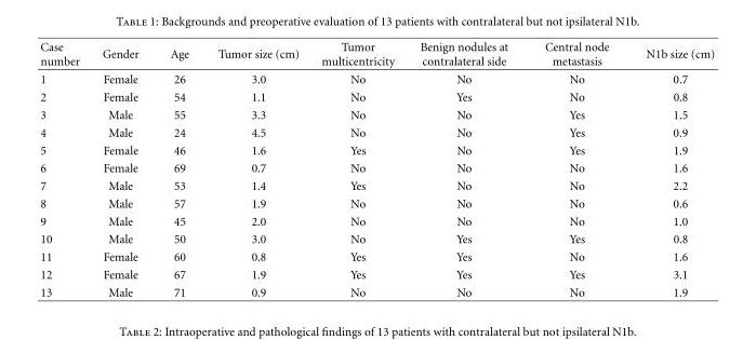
<table><thead><tr><td>Case number</td><td>Gender</td><td>Age</td><td>Tumor size (cm)</td><td>Tumor multicentricity</td><td>Benign nodules at contralateral side</td><td>Central node metastasis</td><td>N1b size (cm)</td></tr></thead><tbody><tr><td>1</td><td>Female</td><td>26</td><td>3.0</td><td>No</td><td>No</td><td>No</td><td>0.7</td></tr><tr><td>2</td><td>Female</td><td>54</td><td>1.1</td><td>No</td><td>Yes</td><td>No</td><td>0.8</td></tr><tr><td>3</td><td>Male</td><td>55</td><td>3.3</td><td>No</td><td>No</td><td>Yes</td><td>1.5</td></tr><tr><td>4</td><td>Male</td><td>24</td><td>4.5</td><td>No</td><td>No</td><td>Yes</td><td>0.9</td></tr><tr><td>5</td><td>Female</td><td>46</td><td>1.6</td><td>Yes</td><td>No</td><td>Yes</td><td>1.9</td></tr><tr><td>6</td><td>Female</td><td>69</td><td>0.7</td><td>No</td><td>No</td><td>No</td><td>1.6</td></tr><tr><td>7</td><td>Male</td><td>53</td><td>1.4</td><td>Yes</td><td>No</td><td>No</td><td>2.2</td></tr><tr><td>8</td><td>Male</td><td>57</td><td>1.9</td><td>No</td><td>No</td><td>No</td><td>0.6</td></tr><tr><td>9</td><td>Male</td><td>45</td><td>2.0</td><td>No</td><td>No</td><td>No</td><td>1.0</td></tr><tr><td>10</td><td>Male</td><td>50</td><td>3.0</td><td>No</td><td>Yes</td><td>Yes</td><td>0.8</td></tr><tr><td>11</td><td>Female</td><td>60</td><td>0.8</td><td>Yes</td><td>Yes</td><td>No</td><td>1.6</td></tr><tr><td>12</td><td>Female</td><td>67</td><td>1.9</td><td>Yes</td><td>Yes</td><td>Yes</td><td>3.1</td></tr><tr><td>13</td><td>Male</td><td>71</td><td>0.9</td><td>No</td><td>No</td><td>No</td><td>1.9</td></tr></tbody></table>